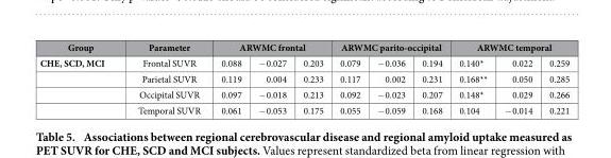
<table><thead><tr><td rowspan="2">Group CHE, SCD, MCI</td><td rowspan="2">Parameter Frontal SUVR</td><td colspan="3">ARWMC frontal</td><td colspan="3">ARWMC parito-occipital</td><td colspan="3">ARWMC temporal</td></tr><tr><td>0.088</td><td>− 0.027</td><td>0.203</td><td>0.079</td><td>− 0.036</td><td>0.194</td><td>0.140*</td><td>0.022</td><td>0.259</td></tr></thead><tbody><tr><td></td><td>Parietal SUVR</td><td>0.119</td><td>0.004</td><td>0.233</td><td>0.117</td><td>0.002</td><td>0.231</td><td>0.168**</td><td>0.050</td><td>0.285</td></tr><tr><td></td><td>Occipital SUVR</td><td>0.097</td><td>− 0.018</td><td>0.213</td><td>0.092</td><td>− 0.023</td><td>0.207</td><td>0.148*</td><td>0.029</td><td>0.266</td></tr><tr><td></td><td>Temporal SUVR</td><td>0.061</td><td>− 0.053</td><td>0.175</td><td>0.055</td><td>− 0.059</td><td>0.168</td><td>0.104</td><td>− 0.014</td><td>0.221</td></tr></tbody></table>